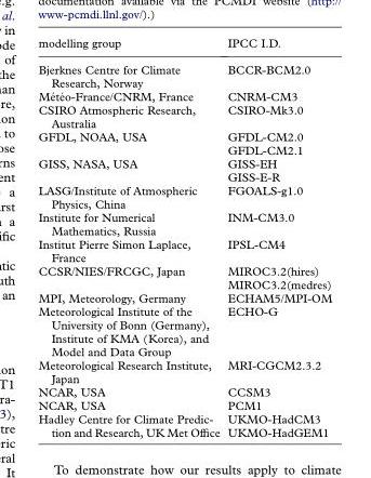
<table><thead><tr><td>modelling group</td><td>IPCC I.D.</td></tr></thead><tbody><tr><td>Bjerknes Centre for Climate Research, Norway</td><td>BCCR-BCM2.0</td></tr><tr><td>Me´te´o-France/CNRM, France</td><td>CNRM-CM3</td></tr><tr><td>CSIRO Atmospheric Research, Australia</td><td>CSIRO-Mk3.0</td></tr><tr><td rowspan="2">GFDL, NOAA, USA</td><td>GFDL-CM2.0</td></tr><tr><td>GFDL-CM2.1</td></tr><tr><td rowspan="2">GISS, NASA, USA</td><td>GISS-EH</td></tr><tr><td>GISS-E-R</td></tr><tr><td>LASG/Institute of Atmospheric Physics, China</td><td>FGOALS-g1.0</td></tr><tr><td>Institute for Numerical Mathematics, Russia</td><td>INM-CM3.0</td></tr><tr><td>Institut Pierre Simon Laplace, France</td><td>IPSL-CM4</td></tr><tr><td rowspan="2">CCSR/NIES/FRCGC, Japan</td><td>MIROC3.2(hires)</td></tr><tr><td>MIROC3.2(medres)</td></tr><tr><td>MPI, Meteorology, Germany</td><td>ECHAM5/MPI-OM</td></tr><tr><td>Meteorological Institute of the University of Bonn (Germany), Institute of KMA (Korea), and Model and Data Group</td><td>ECHO-G</td></tr><tr><td>Meteorological Research Institute, Japan</td><td>MRI-CGCM2.3.2</td></tr><tr><td>NCAR, USA</td><td>CCSM3</td></tr><tr><td>NCAR, USA</td><td>PCM1</td></tr><tr><td rowspan="2">Hadley Centre for Climate Predic- tion and Research, UK Met Office</td><td>UKMO-HadCM3</td></tr><tr><td>UKMO-HadGEM1</td></tr></tbody></table>